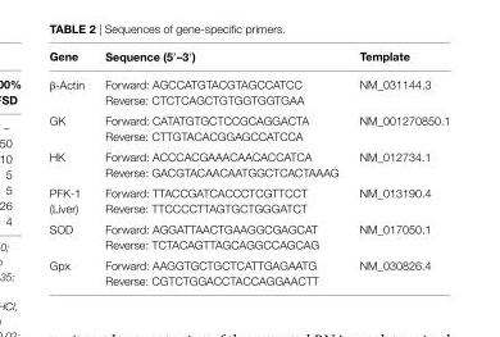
<table><thead><tr><td>gene</td><td>sequence (5′–3′)</td><td>Template</td></tr></thead><tbody><tr><td>β-Actin</td><td>Forward: AGCCATGTACGTAGCCATCC Reverse: CTCTCAGCTGTGGTGGTGAA</td><td>NM_031144.3</td></tr><tr><td>GK</td><td>Forward: CATATGTGCTCCGCAGGACTA Reverse: CTTGTACACGGAGCCATCCA</td><td>NM_001270850.1</td></tr><tr><td>HK</td><td>Forward: ACCCACGAAACAACACCATCA Reverse: GACGTACAACAATGGCTCACTAAAG</td><td>NM_012734.1</td></tr><tr><td>PFK-1 (Liver)</td><td>Forward: TTACCGATCACCCTCGTTCCT Reverse: TTCCCCTTAGTGCTGGGATCT</td><td>NM_013190.4</td></tr><tr><td>SOD</td><td>Forward: AGGATTAACTGAAGGCGAGCAT Reverse: TCTACAGTTAGCAGGCCAGCAG</td><td>NM_017050.1</td></tr><tr><td>Gpx</td><td>Forward: AAGGTGCTGCTCATTGAGAATG Reverse: CGTCTGGACCTACCAGGAACTT</td><td>NM_030826.4</td></tr></tbody></table>